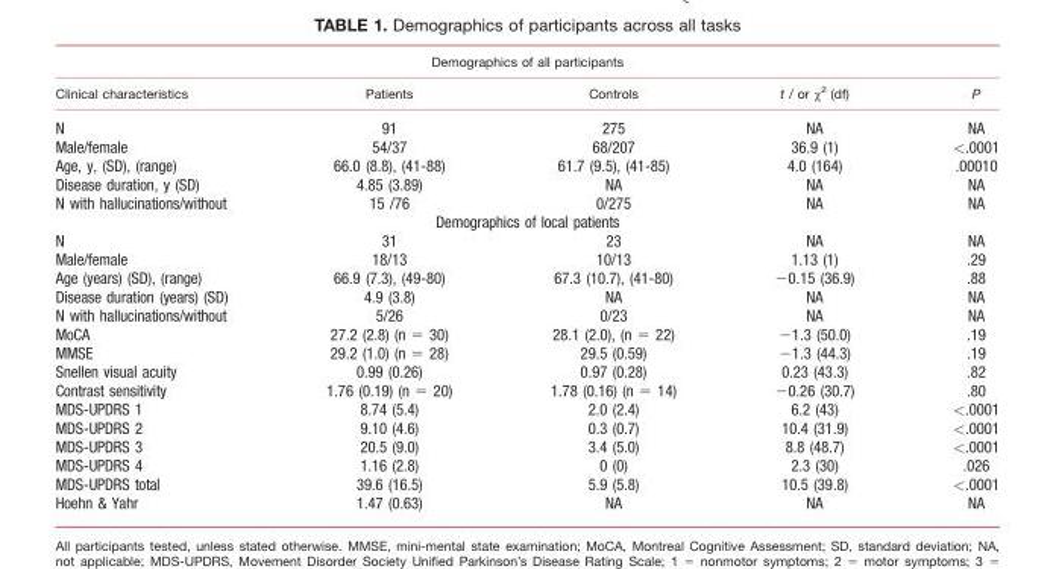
<table><thead><tr><td colspan="5">Demographics of all participants</td></tr><tr><td>Clinical characteristics</td><td>Patients</td><td>Controls</td><td>t / or χ<sup>2</sup> (df)</td><td>P</td></tr></thead><tbody><tr><td>N</td><td>91</td><td>275</td><td>NA</td><td>NA</td></tr><tr><td>Male/female</td><td>54/37</td><td>68/207</td><td>36.9 (1)</td><td>&lt;.0001</td></tr><tr><td>Age, y, (SD), (range)</td><td>66.0 (8.8), (41-88)</td><td>61.7 (9.5), (41-85)</td><td>4.0 (164)</td><td>.00010</td></tr><tr><td>Disease duration, y (SD)</td><td>4.85 (3.89)</td><td>NA</td><td>NA</td><td>NA</td></tr><tr><td>N with hallucinations/without</td><td>15 /76</td><td>0/275</td><td>NA</td><td>NA</td></tr><tr><td colspan="5">Demographics of local patients</td></tr><tr><td>N</td><td>31</td><td>23</td><td>NA</td><td>NA</td></tr><tr><td>Male/female</td><td>18/13</td><td>10/13</td><td>1.13 (1)</td><td>.29</td></tr><tr><td>Age (years) (SD), (range)</td><td>66.9 (7.3), (49-80)</td><td>67.3 (10.7), (41-80)</td><td>−0.15 (36.9)</td><td>.88</td></tr><tr><td>Disease duration (years) (SD)</td><td>4.9 (3.8)</td><td>NA</td><td>NA</td><td>NA</td></tr><tr><td>N with hallucinations/without</td><td>5/26</td><td>0/23</td><td>NA</td><td>NA</td></tr><tr><td>MoCA</td><td>27.2 (2.8) (n = 30)</td><td>28.1 (2.0), (n = 22)</td><td>−1.3 (50.0)</td><td>.19</td></tr><tr><td>MMSE</td><td>29.2 (1.0) (n = 28)</td><td>29.5 (0.59)</td><td>−1.3 (44.3)</td><td>.19</td></tr><tr><td>Snellen visual acuity</td><td>0.99 (0.26)</td><td>0.97 (0.28)</td><td>0.23 (43.3)</td><td>.82</td></tr><tr><td>Contrast sensitivity</td><td>1.76 (0.19) (n = 20)</td><td>1.78 (0.16) (n = 14)</td><td>−0.26 (30.7)</td><td>.80</td></tr><tr><td>MDS-UPDRS 1</td><td>8.74 (5.4)</td><td>2.0 (2.4)</td><td>6.2 (43)</td><td>&lt;.0001</td></tr><tr><td>MDS-UPDRS 2</td><td>9.10 (4.6)</td><td>0.3 (0.7)</td><td>10.4 (31.9)</td><td>&lt;.0001</td></tr><tr><td>MDS-UPDRS 3</td><td>20.5 (9.0)</td><td>3.4 (5.0)</td><td>8.8 (48.7)</td><td>&lt;.0001</td></tr><tr><td>MDS-UPDRS 4</td><td>1.16 (2.8)</td><td>0 (0)</td><td>2.3 (30)</td><td>.026</td></tr><tr><td>MDS-UPDRS total</td><td>39.6 (16.5)</td><td>5.9 (5.8)</td><td>10.5 (39.8)</td><td>&lt;.0001</td></tr><tr><td>Hoehn &amp; Yahr</td><td>1.47 (0.63)</td><td>NA</td><td>NA</td><td>NA</td></tr></tbody></table>